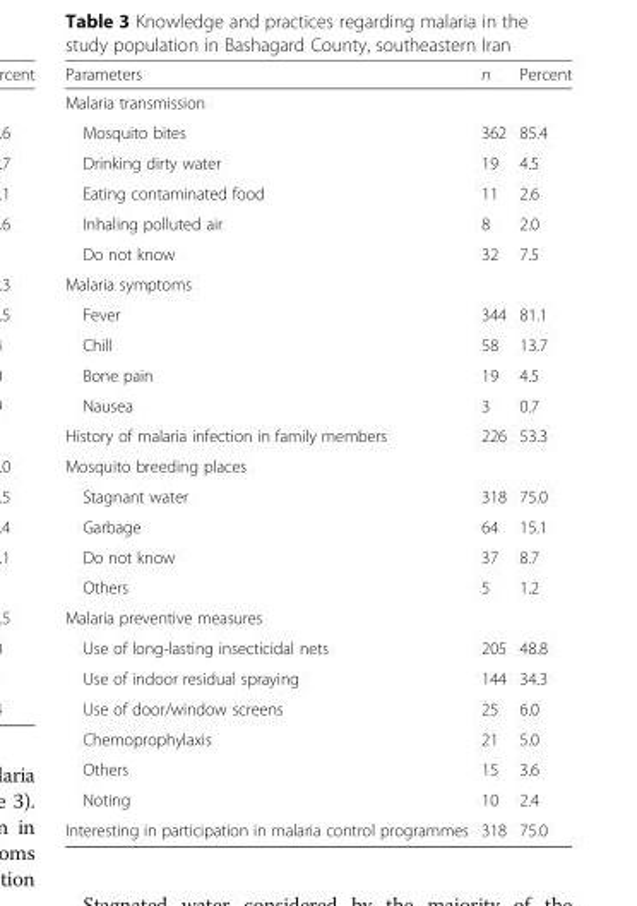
<table><thead><tr><td>Parameters</td><td>n</td><td>Percent</td></tr></thead><tbody><tr><td colspan="3">Malaria transmission</td></tr><tr><td>Mosquito bites</td><td>362</td><td>85.4</td></tr><tr><td>Drinking dirty water</td><td>19</td><td>4.5</td></tr><tr><td>Eating contaminated food</td><td>11</td><td>2.6</td></tr><tr><td>Inhaling polluted air</td><td>8</td><td>2.0</td></tr><tr><td>Do not know</td><td>32</td><td>7.5</td></tr><tr><td colspan="3">Malaria symptoms</td></tr><tr><td>Fever</td><td>344</td><td>81.1</td></tr><tr><td>Chill</td><td>58</td><td>13.7</td></tr><tr><td>Bone pain</td><td>19</td><td>4.5</td></tr><tr><td>Nausea</td><td>3</td><td>0.7</td></tr><tr><td>History of malaria infection in family members</td><td>226</td><td>53.3</td></tr><tr><td colspan="3">Mosquito breeding places</td></tr><tr><td>Stagnant water</td><td>318</td><td>75.0</td></tr><tr><td>Garbage</td><td>64</td><td>15.1</td></tr><tr><td>Do not know</td><td>37</td><td>8.7</td></tr><tr><td>Others</td><td>5</td><td>1.2</td></tr><tr><td colspan="3">Malaria preventive measures</td></tr><tr><td>Use of long-lasting insecticidal nets</td><td>205</td><td>48.8</td></tr><tr><td>Use of indoor residual spraying</td><td>144</td><td>34.3</td></tr><tr><td>Use of door/window screens</td><td>25</td><td>6.0</td></tr><tr><td>Chemoprophylaxis</td><td>21</td><td>5.0</td></tr><tr><td>Others</td><td>15</td><td>3.6</td></tr><tr><td>Noting</td><td>10</td><td>2.4</td></tr><tr><td>Interesting in participation in malaria control programmes</td><td>318</td><td>75.0</td></tr></tbody></table>